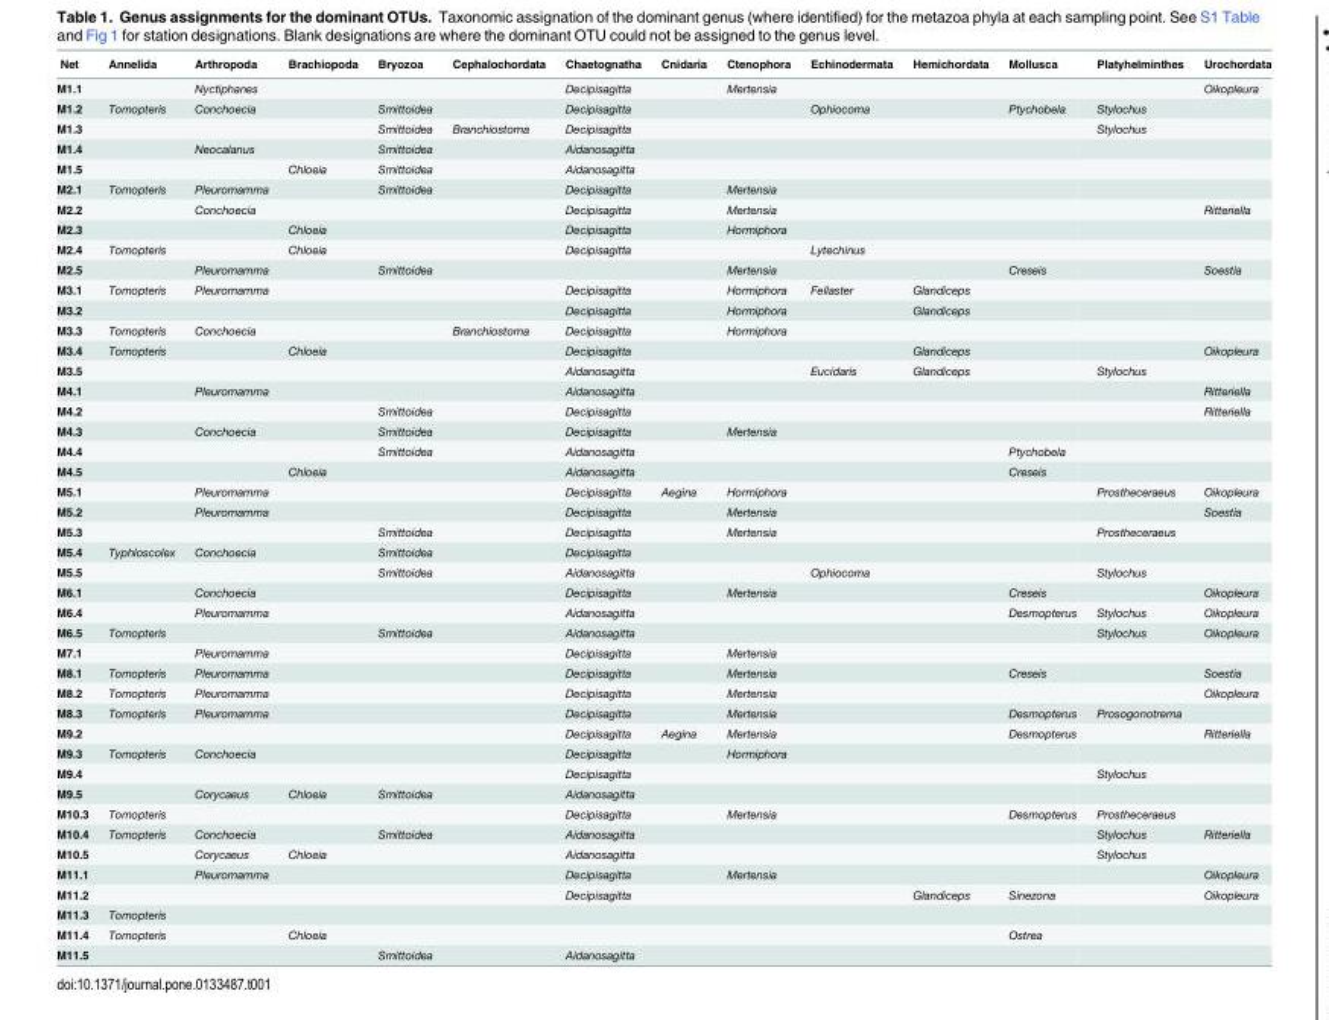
<table><thead><tr><td>Net</td><td>Annelida</td><td>Arthropoda</td><td>Brachiopoda</td><td>Bryozoa</td><td>Cephalochordata</td><td>Chaetognatha</td><td>Cnidaria</td><td>Ctenophora</td><td>Echinodermata</td><td>Hemichordata</td><td>Mollusca</td><td>Platyhelminthes</td><td>Urochordata</td></tr></thead><tbody><tr><td>M1.1</td><td></td><td>Nyctiphanes</td><td></td><td></td><td></td><td>Decipisagitta</td><td></td><td>Mertensia</td><td></td><td></td><td></td><td></td><td>Oikopleura</td></tr><tr><td>M1.2</td><td>Tomopteris</td><td>Conchoecia</td><td></td><td>Smittoidea</td><td></td><td>Decipisagitta</td><td></td><td></td><td>Ophiocoma</td><td></td><td>Ptychobela</td><td>Stylochus</td><td></td></tr><tr><td>M1.3</td><td></td><td></td><td></td><td>Smittoidea</td><td>Branchiostoma</td><td>Decipisagitta</td><td></td><td></td><td></td><td></td><td></td><td>Stylochus</td><td></td></tr><tr><td>M1.4</td><td></td><td>Neocalanus</td><td></td><td>Smittoidea</td><td></td><td>Aidanosagitta</td><td></td><td></td><td></td><td></td><td></td><td></td><td></td></tr><tr><td>M1.5</td><td></td><td></td><td>Chloeia</td><td>Smittoidea</td><td></td><td>Aidanosagitta</td><td></td><td></td><td></td><td></td><td></td><td></td><td></td></tr><tr><td>M2.1</td><td>Tomopteris</td><td>Pleuromamma</td><td></td><td>Smittoidea</td><td></td><td>Decipisagitta</td><td></td><td>Mertensia</td><td></td><td></td><td></td><td></td><td></td></tr><tr><td>M2.2</td><td></td><td>Conchoecia</td><td></td><td></td><td></td><td>Decipisagitta</td><td></td><td>Mertensia</td><td></td><td></td><td></td><td></td><td>Ritteriella</td></tr><tr><td>M2.3</td><td></td><td></td><td>Chloeia</td><td></td><td></td><td>Decipisagitta</td><td></td><td>Hormiphora</td><td></td><td></td><td></td><td></td><td></td></tr><tr><td>M2.4</td><td>Tomopteris</td><td></td><td>Chloeia</td><td></td><td></td><td>Decipisagitta</td><td></td><td></td><td>Lytechinus</td><td></td><td></td><td></td><td></td></tr><tr><td>M2.5</td><td></td><td>Pleuromamma</td><td></td><td>Smittoidea</td><td></td><td></td><td></td><td>Mertensia</td><td></td><td></td><td>Creseis</td><td></td><td>Soestia</td></tr><tr><td>M3.1</td><td>Tomopteris</td><td>Pleuromamma</td><td></td><td></td><td></td><td>Decipisagitta</td><td></td><td>Hormiphora</td><td>Fellaster</td><td>Glandiceps</td><td></td><td></td><td></td></tr><tr><td>M3.2</td><td></td><td></td><td></td><td></td><td></td><td>Decipisagitta</td><td></td><td>Hormiphora</td><td></td><td>Glandiceps</td><td></td><td></td><td></td></tr><tr><td>M3.3</td><td>Tomopteris</td><td>Conchoecia</td><td></td><td></td><td>Branchiostoma</td><td>Decipisagitta</td><td></td><td>Hormiphora</td><td></td><td></td><td></td><td></td><td></td></tr><tr><td>M3.4</td><td>Tomopteris</td><td></td><td>Chloeia</td><td></td><td></td><td>Decipisagitta</td><td></td><td></td><td></td><td>Glandiceps</td><td></td><td></td><td>Oikopleura</td></tr><tr><td>M3.5</td><td></td><td></td><td></td><td></td><td></td><td>Aidanosagitta</td><td></td><td></td><td>Eucidaris</td><td>Glandiceps</td><td></td><td>Stylochus</td><td></td></tr><tr><td>M4.1</td><td></td><td>Pleuromamma</td><td></td><td></td><td></td><td>Aidanosagitta</td><td></td><td></td><td></td><td></td><td></td><td></td><td>Ritteriella</td></tr><tr><td>M4.2</td><td></td><td></td><td></td><td>Smittoidea</td><td></td><td>Decipisagitta</td><td></td><td></td><td></td><td></td><td></td><td></td><td>Ritteriella</td></tr><tr><td>M4.3</td><td></td><td>Conchoecia</td><td></td><td>Smittoidea</td><td></td><td>Decipisagitta</td><td></td><td>Mertensia</td><td></td><td></td><td></td><td></td><td></td></tr><tr><td>M4.4</td><td></td><td></td><td></td><td>Smittoidea</td><td></td><td>Aidanosagitta</td><td></td><td></td><td></td><td></td><td>Ptychobela</td><td></td><td></td></tr><tr><td>M4.5</td><td></td><td></td><td>Chloeia</td><td></td><td></td><td>Aidanosagitta</td><td></td><td></td><td></td><td></td><td>Creseis</td><td></td><td></td></tr><tr><td>M5.1</td><td></td><td>Pleuromamma</td><td></td><td></td><td></td><td>Decipisagitta</td><td>Aegina</td><td>Hormiphora</td><td></td><td></td><td></td><td>Prostheceraeus</td><td>Oikopleura</td></tr><tr><td>M5.2</td><td></td><td>Pleuromamma</td><td></td><td></td><td></td><td>Decipisagitta</td><td></td><td>Mertensia</td><td></td><td></td><td></td><td></td><td>Soestia</td></tr><tr><td>M5.3</td><td></td><td></td><td></td><td>Smittoidea</td><td></td><td>Decipisagitta</td><td></td><td>Mertensia</td><td></td><td></td><td></td><td>Prostheceraeus</td><td></td></tr><tr><td>M5.4</td><td>Typhloscolex</td><td>Conchoecia</td><td></td><td>Smittoidea</td><td></td><td>Decipisagitta</td><td></td><td></td><td></td><td></td><td></td><td></td><td></td></tr><tr><td>M5.5</td><td></td><td></td><td></td><td>Smittoidea</td><td></td><td>Aidanosagitta</td><td></td><td></td><td>Ophiocoma</td><td></td><td></td><td>Stylochus</td><td></td></tr><tr><td>M6.1</td><td></td><td>Conchoecia</td><td></td><td></td><td></td><td>Decipisagitta</td><td></td><td>Mertensia</td><td></td><td></td><td>Creseis</td><td></td><td>Oikopleura</td></tr><tr><td>M6.4</td><td></td><td>Pleuromamma</td><td></td><td></td><td></td><td>Aidanosagitta</td><td></td><td></td><td></td><td></td><td>Desmopterus</td><td>Stylochus</td><td>Oikopleura</td></tr><tr><td>M6.5</td><td>Tomopteris</td><td></td><td></td><td>Smittoidea</td><td></td><td>Aidanosagitta</td><td></td><td></td><td></td><td></td><td></td><td>Stylochus</td><td>Oikopleura</td></tr><tr><td>M7.1</td><td></td><td>Pleuromamma</td><td></td><td></td><td></td><td>Decipisagitta</td><td></td><td>Mertensia</td><td></td><td></td><td></td><td></td><td></td></tr><tr><td>M8.1</td><td>Tomopteris</td><td>Pleuromamma</td><td></td><td></td><td></td><td>Decipisagitta</td><td></td><td>Mertensia</td><td></td><td></td><td>Creseis</td><td></td><td>Soestia</td></tr><tr><td>M8.2</td><td>Tomopteris</td><td>Pleuromamma</td><td></td><td></td><td></td><td>Decipisagitta</td><td></td><td>Mertensia</td><td></td><td></td><td></td><td></td><td>Oikopleura</td></tr><tr><td>M8.3</td><td>Tomopteris</td><td>Pleuromamma</td><td></td><td></td><td></td><td>Decipisagitta</td><td></td><td>Mertensia</td><td></td><td></td><td>Desmopterus</td><td>Prosogonotrema</td><td></td></tr><tr><td>M9.2</td><td></td><td></td><td></td><td></td><td></td><td>Decipisagitta</td><td>Aegina</td><td>Mertensia</td><td></td><td></td><td>Desmopterus</td><td></td><td>Ritteriella</td></tr><tr><td>M9.3</td><td>Tomopteris</td><td>Conchoecia</td><td></td><td></td><td></td><td>Decipisagitta</td><td></td><td>Hormiphora</td><td></td><td></td><td></td><td></td><td></td></tr><tr><td>M9.4</td><td></td><td></td><td></td><td></td><td></td><td>Decipisagitta</td><td></td><td></td><td></td><td></td><td></td><td>Stylochus</td><td></td></tr><tr><td>M9.5</td><td></td><td>Corycaeus</td><td>Chloeia</td><td>Smittoidea</td><td></td><td>Aidanosagitta</td><td></td><td></td><td></td><td></td><td></td><td></td><td></td></tr><tr><td>M10.3</td><td>Tomopteris</td><td></td><td></td><td></td><td></td><td>Decipisagitta</td><td></td><td>Mertensia</td><td></td><td></td><td>Desmopterus</td><td>Prostheceraeus</td><td></td></tr><tr><td>M10.4</td><td>Tomopteris</td><td>Conchoecia</td><td></td><td>Smittoidea</td><td></td><td>Aidanosagitta</td><td></td><td></td><td></td><td></td><td></td><td>Stylochus</td><td>Ritteriella</td></tr><tr><td>M10.5</td><td></td><td>Corycaeus</td><td>Chloeia</td><td></td><td></td><td>Aidanosagitta</td><td></td><td></td><td></td><td></td><td></td><td>Stylochus</td><td></td></tr><tr><td>M11.1</td><td></td><td>Pleuromamma</td><td></td><td></td><td></td><td>Decipisagitta</td><td></td><td>Mertensia</td><td></td><td></td><td></td><td></td><td>Oikopleura</td></tr><tr><td>M11.2</td><td></td><td></td><td></td><td></td><td></td><td>Decipisagitta</td><td></td><td></td><td></td><td>Glandiceps</td><td>Sinezona</td><td></td><td>Oikopleura</td></tr><tr><td>M11.3</td><td>Tomopteris</td><td></td><td></td><td></td><td></td><td></td><td></td><td></td><td></td><td></td><td></td><td></td><td></td></tr><tr><td>M11.4</td><td>Tomopteris</td><td></td><td>Chloeia</td><td></td><td></td><td></td><td></td><td></td><td></td><td></td><td>Ostrea</td><td></td><td></td></tr><tr><td>M11.5</td><td></td><td></td><td></td><td>Smittoidea</td><td></td><td>Aidanosagitta</td><td></td><td></td><td></td><td></td><td></td><td></td><td></td></tr></tbody></table>